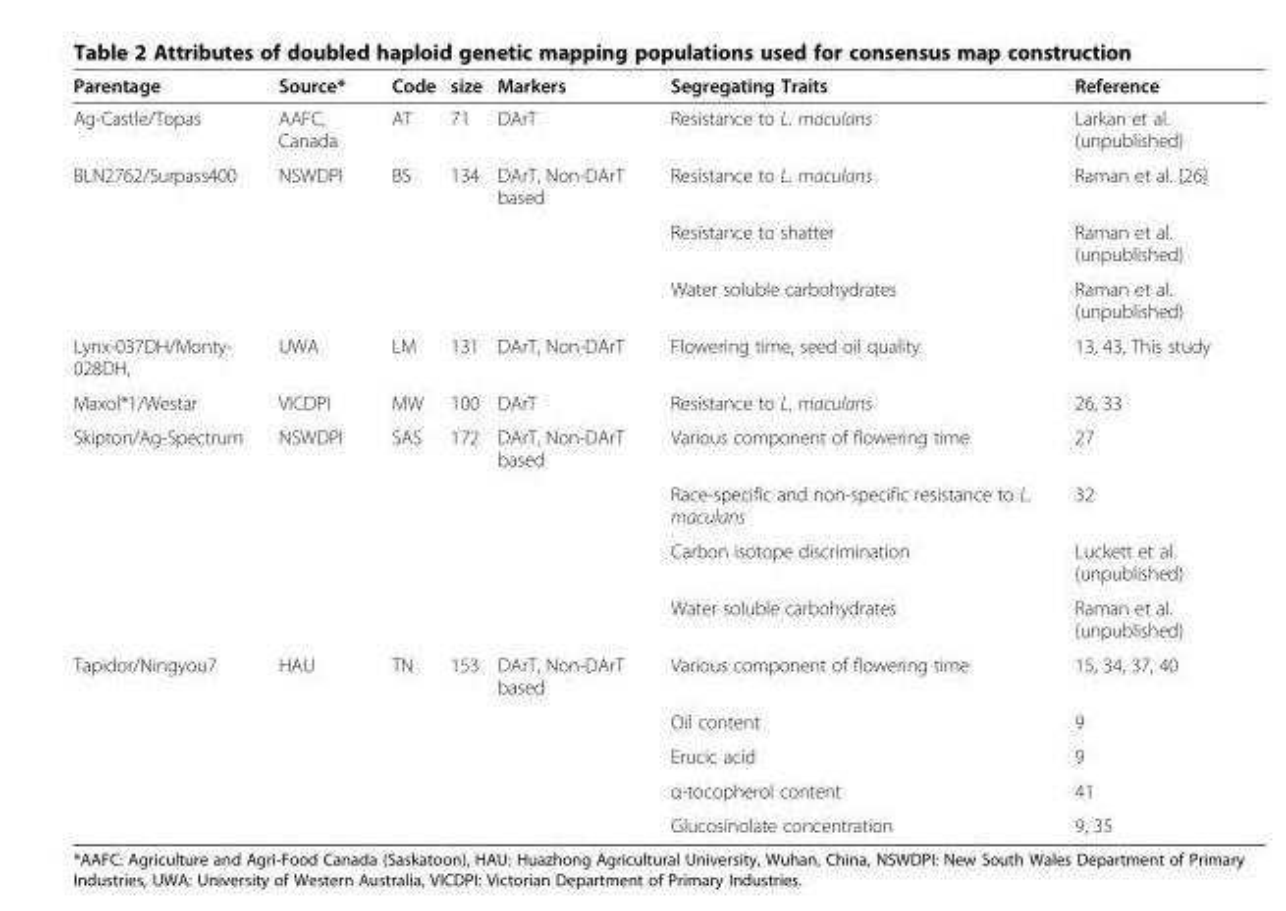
<table><thead><tr><td>Parentage</td><td>Source*</td><td>Code</td><td>size</td><td>Markers</td><td>Segregating Traits</td><td>Reference</td></tr></thead><tbody><tr><td>Ag-Castle/Topas</td><td>AAFC, Canada</td><td>AT</td><td>71</td><td>DArT</td><td>Resistance to L. maculans</td><td>Larkan et al. (unpublished)</td></tr><tr><td rowspan="3">BLN2762/Surpass400</td><td>NSWDPI</td><td>BS</td><td>134</td><td>DArT, Non-DArT based</td><td>Resistance to L. maculans</td><td>Raman et al. [26]</td></tr><tr><td></td><td></td><td></td><td></td><td>Resistance to shatter</td><td>Raman et al. (unpublished)</td></tr><tr><td></td><td></td><td></td><td></td><td>Water soluble carbohydrates</td><td>Raman et al. (unpublished)</td></tr><tr><td>Lynx-037DH/Monty- 028DH,</td><td>UWA</td><td>LM</td><td>131</td><td>DArT, Non-DArT</td><td>Flowering time, seed oil quality</td><td>13, 43, This study</td></tr><tr><td>Maxol*1/Westar</td><td>VICDPI</td><td>MW</td><td>100</td><td>DArT</td><td>Resistance to L. maculans</td><td>26, 33</td></tr><tr><td rowspan="4">Skipton/Ag-Spectrum</td><td>NSWDPI</td><td>SAS</td><td>172</td><td>DArT, Non-DArT based</td><td>Various component of flowering time</td><td>27</td></tr><tr><td></td><td></td><td></td><td></td><td>Race-specific and non-specific resistance to L. maculans</td><td>32</td></tr><tr><td></td><td></td><td></td><td></td><td>Carbon isotope discrimination</td><td>Luckett et al. (unpublished)</td></tr><tr><td></td><td></td><td></td><td></td><td>Water soluble carbohydrates</td><td>Raman et al. (unpublished)</td></tr><tr><td rowspan="5">Tapidor/Ningyou7</td><td>HAU</td><td>TN</td><td>153</td><td>DArT, Non-DArT based</td><td>Various component of flowering time</td><td>15, 34, 37, 40</td></tr><tr><td></td><td></td><td></td><td></td><td>Oil content</td><td>9</td></tr><tr><td></td><td></td><td></td><td></td><td>Erucic acid</td><td>9</td></tr><tr><td></td><td></td><td></td><td></td><td>α-tocopherol content</td><td>41</td></tr><tr><td></td><td></td><td></td><td></td><td>Glucosinolate concentration</td><td>9, 35</td></tr></tbody></table>